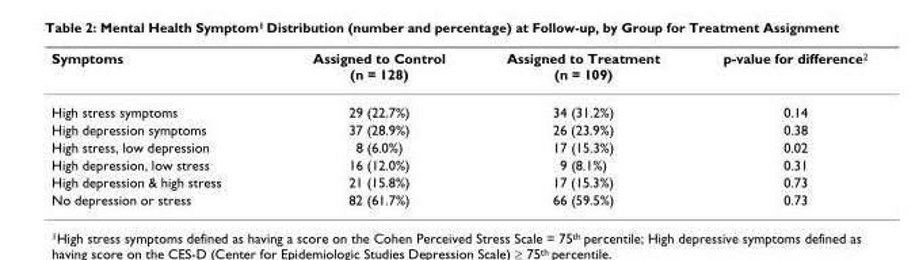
<table><thead><tr><td>Symptoms</td><td>Assigned to Control (n = 128)</td><td>Assigned to Treatment (n = 109)</td><td>p-value for difference<sup>2</sup></td></tr></thead><tbody><tr><td>High stress symptoms</td><td>29 (22.7%)</td><td>34 (31.2%)</td><td>0.14</td></tr><tr><td>High depression symptoms</td><td>37 (28.9%)</td><td>26 (23.9%)</td><td>0.38</td></tr><tr><td>High stress, low depression</td><td>8 (6.0%)</td><td>17 (15.3%)</td><td>0.02</td></tr><tr><td>High depression, low stress</td><td>16 (12.0%)</td><td>9 (8.1%)</td><td>0.31</td></tr><tr><td>High depression &amp; high stress</td><td>21 (15.8%)</td><td>17 (15.3%)</td><td>0.73</td></tr><tr><td>No depression or stress</td><td>82 (61.7%)</td><td>66 (59.5%)</td><td>0.73</td></tr></tbody></table>